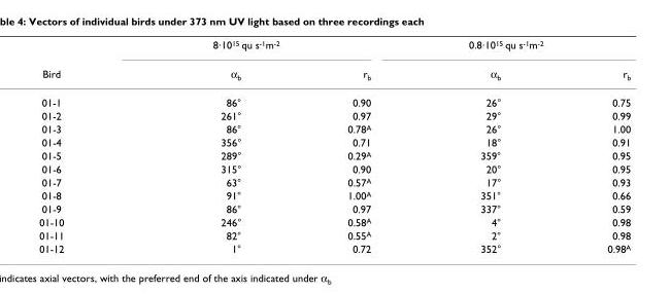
<table><thead><tr><td rowspan="2">Bird</td><td colspan="2">8·10<sup>15</sup> qu s<sup>-1</sup>m<sup>-2</sup></td><td colspan="2">0.8·10<sup>15</sup> qu s<sup>-1</sup>m<sup>-2</sup></td></tr><tr><td>α<sub>b</sub></td><td>r<sub>b</sub></td><td>α<sub>b</sub></td><td>r<sub>b</sub></td></tr></thead><tbody><tr><td>01-1</td><td>86°</td><td>0.90</td><td>26°</td><td>0.75</td></tr><tr><td>01-2</td><td>261°</td><td>0.97</td><td>29°</td><td>0.99</td></tr><tr><td>01-3</td><td>86°</td><td>0.78<sup>A</sup></td><td>26°</td><td>1.00</td></tr><tr><td>01-4</td><td>356°</td><td>0.71</td><td>18°</td><td>0.91</td></tr><tr><td>01-5</td><td>289°</td><td>0.29<sup>A</sup></td><td>359°</td><td>0.95</td></tr><tr><td>01-6</td><td>315°</td><td>0.90</td><td>20°</td><td>0.95</td></tr><tr><td>01-7</td><td>63°</td><td>0.57<sup>A</sup></td><td>17°</td><td>0.93</td></tr><tr><td>01-8</td><td>91°</td><td>1.00<sup>A</sup></td><td>351°</td><td>0.66</td></tr><tr><td>01-9</td><td>86°</td><td>0.97</td><td>337°</td><td>0.59</td></tr><tr><td>01-10</td><td>246°</td><td>0.58<sup>A</sup></td><td>4°</td><td>0.98</td></tr><tr><td>01-11</td><td>82°</td><td>0.55<sup>A</sup></td><td>2°</td><td>0.98</td></tr><tr><td>01-12</td><td>1°</td><td>0.72</td><td>352°</td><td>0.98<sup>A</sup></td></tr></tbody></table>